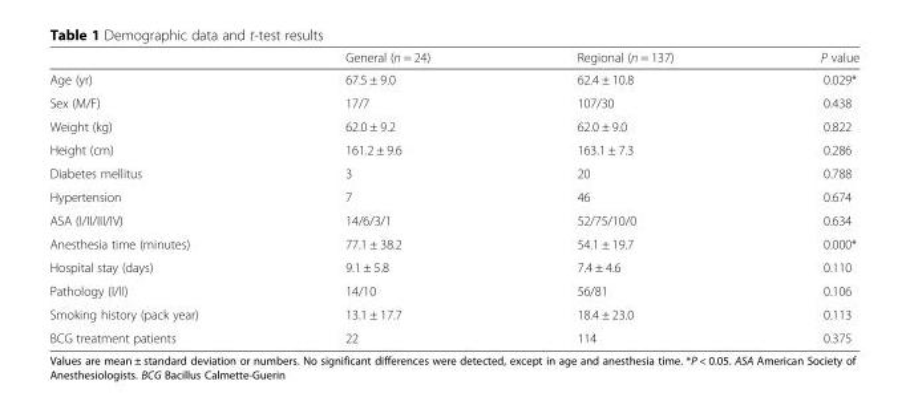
<table><thead><tr><td></td><td>General (n = 24)</td><td>Regional (n = 137)</td><td>P value</td></tr></thead><tbody><tr><td>Age (yr)</td><td>67.5 ± 9.0</td><td>62.4 ± 10.8</td><td>0.029*</td></tr><tr><td>Sex (M/F)</td><td>17/7</td><td>107/30</td><td>0.438</td></tr><tr><td>Weight (kg)</td><td>62.0 ± 9.2</td><td>62.0 ± 9.0</td><td>0.822</td></tr><tr><td>Height (cm)</td><td>161.2 ± 9.6</td><td>163.1 ± 7.3</td><td>0.286</td></tr><tr><td>Diabetes mellitus</td><td>3</td><td>20</td><td>0.788</td></tr><tr><td>Hypertension</td><td>7</td><td>46</td><td>0.674</td></tr><tr><td>ASA (I/II/III/IV)</td><td>14/6/3/1</td><td>52/75/10/0</td><td>0.634</td></tr><tr><td>Anesthesia time (minutes)</td><td>77.1 ± 38.2</td><td>54.1 ± 19.7</td><td>0.000*</td></tr><tr><td>Hospital stay (days)</td><td>9.1 ± 5.8</td><td>7.4 ± 4.6</td><td>0.110</td></tr><tr><td>Pathology (I/II)</td><td>14/10</td><td>56/81</td><td>0.106</td></tr><tr><td>Smoking history (pack year)</td><td>13.1 ± 17.7</td><td>18.4 ± 23.0</td><td>0.113</td></tr><tr><td>BCG treatment patients</td><td>22</td><td>114</td><td>0.375</td></tr></tbody></table>